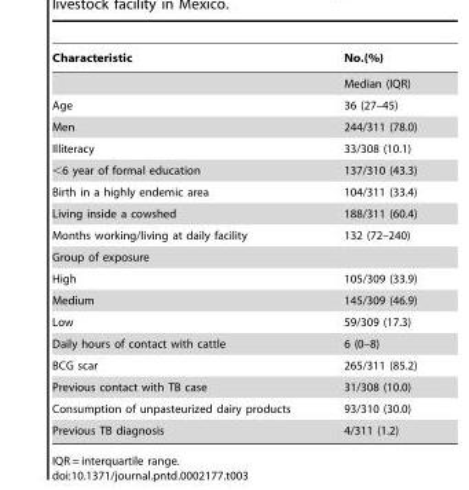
<table><thead><tr><td>Characteristic</td><td>No.(%)</td></tr></thead><tbody><tr><td></td><td>Median (IQR)</td></tr><tr><td>Age</td><td>36 (27–45)</td></tr><tr><td>Men</td><td>244/311 (78.0)</td></tr><tr><td>Illiteracy</td><td>33/308 (10.1)</td></tr><tr><td>&lt;6 year of formal education</td><td>137/310 (43.3)</td></tr><tr><td>Birth in a highly endemic area</td><td>104/311 (33.4)</td></tr><tr><td>Living inside a cowshed</td><td>188/311 (60.4)</td></tr><tr><td>Months working/living at daily facility</td><td>132 (72–240)</td></tr><tr><td colspan="2">Group of exposure</td></tr><tr><td>High</td><td>105/309 (33.9)</td></tr><tr><td>Medium</td><td>145/309 (46.9)</td></tr><tr><td>Low</td><td>59/309 (17.3)</td></tr><tr><td>Daily hours of contact with cattle</td><td>6 (0–8)</td></tr><tr><td>BCG scar</td><td>265/311 (85.2)</td></tr><tr><td>Previous contact with TB case</td><td>31/308 (10.0)</td></tr><tr><td>Consumption of unpasteurized dairy products</td><td>93/310 (30.0)</td></tr><tr><td>Previous TB diagnosis</td><td>4/311 (1.2)</td></tr></tbody></table>